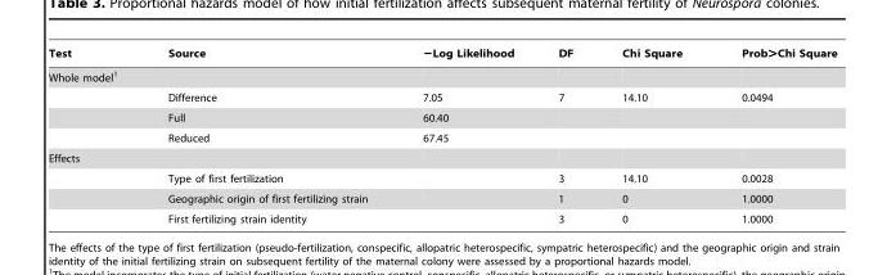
<table><thead><tr><td>Test</td><td>Source</td><td>−Log Likelihood</td><td>DF</td><td>Chi Square</td><td>Prob&gt;Chi Square</td></tr></thead><tbody><tr><td colspan="6">Whole model<sup>1</sup></td></tr><tr><td></td><td>Difference</td><td>7.05</td><td>7</td><td>14.10</td><td>0.0494</td></tr><tr><td></td><td>Full</td><td>60.40</td><td></td><td></td><td></td></tr><tr><td></td><td>Reduced</td><td>67.45</td><td></td><td></td><td></td></tr><tr><td colspan="6">Effects</td></tr><tr><td></td><td>Type of first fertilization</td><td></td><td>3</td><td>14.10</td><td>0.0028</td></tr><tr><td></td><td>Geographic origin of first fertilizing strain</td><td></td><td>1</td><td>0</td><td>1.0000</td></tr><tr><td></td><td>First fertilizing strain identity</td><td></td><td>3</td><td>0</td><td>1.0000</td></tr></tbody></table>